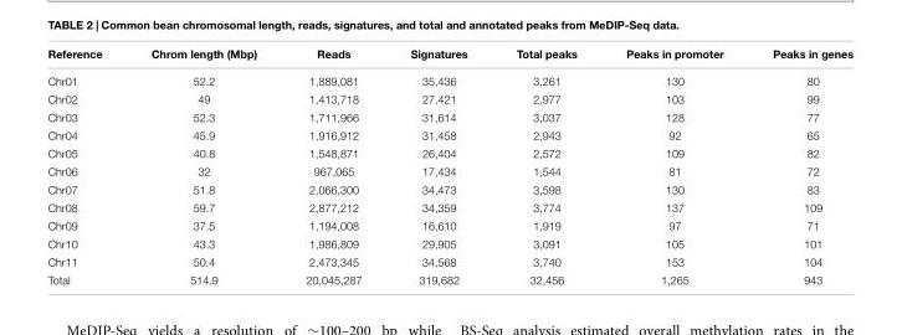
<table><thead><tr><td>Reference</td><td>Chrom length (Mbp)</td><td>Reads</td><td>Signatures</td><td>Total peaks</td><td>Peaks in promoter</td><td>Peaks in genes</td></tr></thead><tbody><tr><td>Chr01</td><td>52.2</td><td>1,889,081</td><td>35,436</td><td>3,261</td><td>130</td><td>80</td></tr><tr><td>Chr02</td><td>49</td><td>1,413,718</td><td>27,421</td><td>2,977</td><td>103</td><td>99</td></tr><tr><td>Chr03</td><td>52.3</td><td>1,711,966</td><td>31,614</td><td>3,037</td><td>128</td><td>77</td></tr><tr><td>Chr04</td><td>45.9</td><td>1,916,912</td><td>31,458</td><td>2,943</td><td>92</td><td>65</td></tr><tr><td>Chr05</td><td>40.8</td><td>1,548,871</td><td>26,404</td><td>2,572</td><td>109</td><td>82</td></tr><tr><td>Chr06</td><td>32</td><td>967,065</td><td>17,434</td><td>1,544</td><td>81</td><td>72</td></tr><tr><td>Chr07</td><td>51.8</td><td>2,066,300</td><td>34,473</td><td>3,598</td><td>130</td><td>83</td></tr><tr><td>Chr08</td><td>59.7</td><td>2,877,212</td><td>34,359</td><td>3,774</td><td>137</td><td>109</td></tr><tr><td>Chr09</td><td>37.5</td><td>1,194,008</td><td>16,610</td><td>1,919</td><td>97</td><td>71</td></tr><tr><td>Chr10</td><td>43.3</td><td>1,986,809</td><td>29,905</td><td>3,091</td><td>105</td><td>101</td></tr><tr><td>Chr11</td><td>50.4</td><td>2,473,345</td><td>34,568</td><td>3,740</td><td>153</td><td>104</td></tr><tr><td>Total</td><td>514.9</td><td>20,045,287</td><td>319,682</td><td>32,456</td><td>1,265</td><td>943</td></tr></tbody></table>